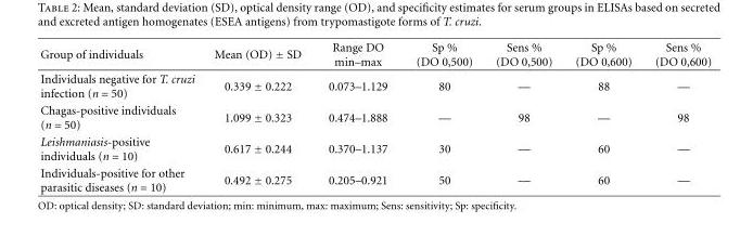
<table><thead><tr><td>Group of individuals</td><td>Mean (OD) ± SD</td><td>Range DO min–max</td><td>Sp % (DO 0,500)</td><td>Sens % (DO 0,500)</td><td>Sp % (DO 0,600)</td><td>Sens % (DO 0,600)</td></tr></thead><tbody><tr><td>Individuals negative for T. cruzi infection (n = 50)</td><td>0.339 ± 0.222</td><td>0.073–1.129</td><td>80</td><td>—</td><td>88</td><td>—</td></tr><tr><td>Chagas-positive individuals (n = 50)</td><td>1.099 ± 0.323</td><td>0.474–1.888</td><td>—</td><td>98</td><td>—</td><td>98</td></tr><tr><td>Leishmaniasis-positive individuals (n = 10)</td><td>0.617 ± 0.244</td><td>0.370–1.137</td><td>30</td><td>—</td><td>60</td><td>—</td></tr><tr><td>Individuals-positive for other parasitic diseases (n = 10)</td><td>0.492 ± 0.275</td><td>0.205–0.921</td><td>50</td><td>—</td><td>60</td><td>—</td></tr></tbody></table>